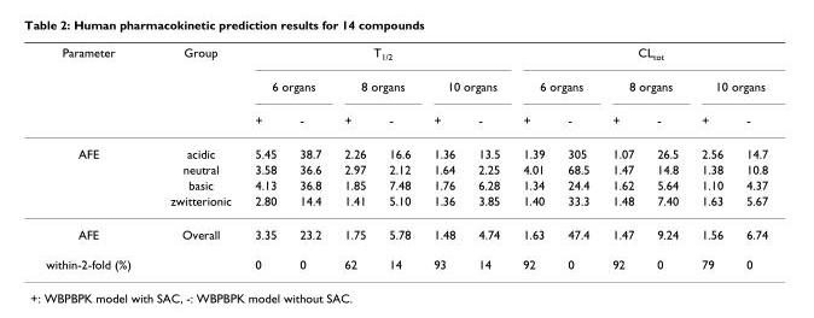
<table><thead><tr><td rowspan="3">Parameter</td><td rowspan="3">Group</td><td colspan="6">T<sub>1/2</sub></td><td colspan="6">CL<sub>tot</sub></td></tr><tr><td colspan="2">6 organs</td><td colspan="2">8 organs</td><td colspan="2">10 organs</td><td colspan="2">6 organs</td><td colspan="2">8 organs</td><td colspan="2">10 organs</td></tr><tr><td>+</td><td>-</td><td>+</td><td>-</td><td>+</td><td>-</td><td>+</td><td>-</td><td>+</td><td>-</td><td>+</td><td>-</td></tr></thead><tbody><tr><td rowspan="4">AFE</td><td>acidic</td><td>5.45</td><td>38.7</td><td>2.26</td><td>16.6</td><td>1.36</td><td>13.5</td><td>1.39</td><td>305</td><td>1.07</td><td>26.5</td><td>2.56</td><td>14.7</td></tr><tr><td>neutral</td><td>3.58</td><td>36.6</td><td>2.97</td><td>2.12</td><td>1.64</td><td>2.25</td><td>4.01</td><td>68.5</td><td>1.47</td><td>14.8</td><td>1.38</td><td>10.8</td></tr><tr><td>basic</td><td>4.13</td><td>36.8</td><td>1.85</td><td>7.48</td><td>1.76</td><td>6.28</td><td>1.34</td><td>24.4</td><td>1.62</td><td>5.64</td><td>1.10</td><td>4.37</td></tr><tr><td>zwitterionic</td><td>2.80</td><td>14.4</td><td>1.41</td><td>5.10</td><td>1.36</td><td>3.85</td><td>1.40</td><td>33.3</td><td>1.48</td><td>7.40</td><td>1.63</td><td>5.67</td></tr><tr><td>AFE</td><td>Overall</td><td>3.35</td><td>23.2</td><td>1.75</td><td>5.78</td><td>1.48</td><td>4.74</td><td>1.63</td><td>47.4</td><td>1.47</td><td>9.24</td><td>1.56</td><td>6.74</td></tr><tr><td>within-2-fold (%)</td><td></td><td>0</td><td>0</td><td>62</td><td>14</td><td>93</td><td>14</td><td>92</td><td>0</td><td>92</td><td>0</td><td>79</td><td>0</td></tr></tbody></table>